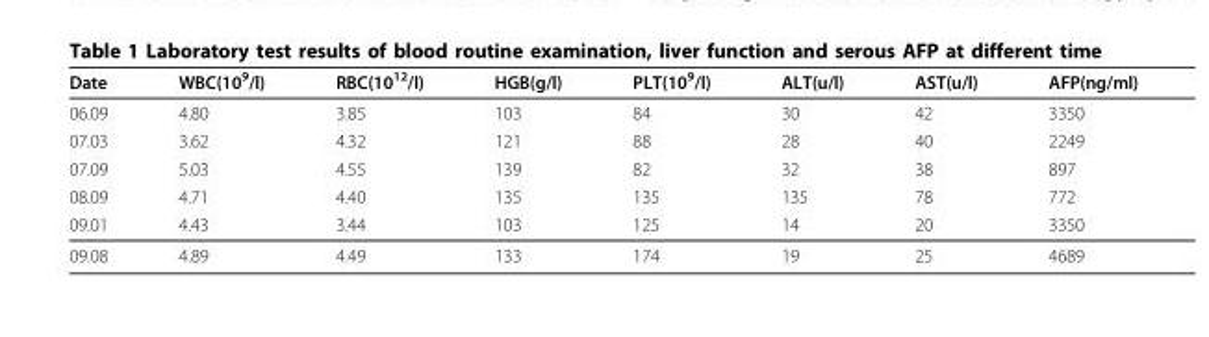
<table><thead><tr><td>Date</td><td>WBC(10<sup>9</sup>/l)</td><td>RBC(10<sup>12</sup>/l)</td><td>HGB(g/l)</td><td>PLT(10<sup>9</sup>/l)</td><td>ALT(u/l)</td><td>AST(u/l)</td><td>AFP(ng/ml)</td></tr></thead><tbody><tr><td>06.09</td><td>4.80</td><td>3.85</td><td>103</td><td>84</td><td>30</td><td>42</td><td>3350</td></tr><tr><td>07.03</td><td>3.62</td><td>4.32</td><td>121</td><td>88</td><td>28</td><td>40</td><td>2249</td></tr><tr><td>07.09</td><td>5.03</td><td>4.55</td><td>139</td><td>82</td><td>32</td><td>38</td><td>897</td></tr><tr><td>08.09</td><td>4.71</td><td>4.40</td><td>135</td><td>135</td><td>135</td><td>78</td><td>772</td></tr><tr><td>09.01</td><td>4.43</td><td>3.44</td><td>103</td><td>125</td><td>14</td><td>20</td><td>3350</td></tr><tr><td>09.08</td><td>4.89</td><td>4.49</td><td>133</td><td>174</td><td>19</td><td>25</td><td>4689</td></tr></tbody></table>